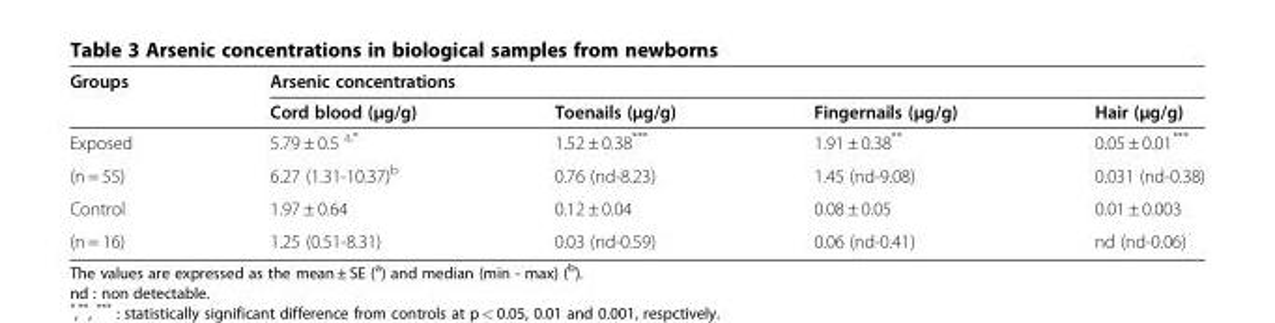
<table><thead><tr><td rowspan="2">Groups</td><td colspan="4">Arsenic concentrations</td></tr><tr><td>Cord blood (μg/g)</td><td>Toenails (μg/g)</td><td>Fingernails (μg/g)</td><td>Hair (μg/g)</td></tr></thead><tbody><tr><td>Exposed</td><td>5.79 ± 0.5 <sup>a,*</sup></td><td>1.52 ± 0.38***</td><td>1.91 ± 0.38**</td><td>0.05 ± 0.01***</td></tr><tr><td>(n = 55)</td><td>6.27 (1.31-10.37)<sup>b</sup></td><td>0.76 (nd-8.23)</td><td>1.45 (nd-9.08)</td><td>0.031 (nd-0.38)</td></tr><tr><td>Control</td><td>1.97 ± 0.64</td><td>0.12 ± 0.04</td><td>0.08 ± 0.05</td><td>0.01 ± 0.003</td></tr><tr><td>(n = 16)</td><td>1.25 (0.51-8.31)</td><td>0.03 (nd-0.59)</td><td>0.06 (nd-0.41)</td><td>nd (nd-0.06)</td></tr></tbody></table>